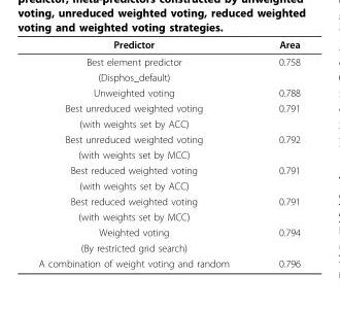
<table><thead><tr><td>Predictor</td><td>Area</td></tr></thead><tbody><tr><td>Best element predictor</td><td>0.758</td></tr><tr><td colspan="2">(Disphos_default)</td></tr><tr><td>Unweighted voting</td><td>0.788</td></tr><tr><td>Best unreduced weighted voting</td><td>0.791</td></tr><tr><td colspan="2">(with weights set by ACC)</td></tr><tr><td>Best unreduced weighted voting</td><td>0.792</td></tr><tr><td colspan="2">(with weights set by MCC)</td></tr><tr><td>Best reduced weighted voting</td><td>0.791</td></tr><tr><td colspan="2">(with weights set by ACC)</td></tr><tr><td>Best reduced weighted voting</td><td>0.791</td></tr><tr><td colspan="2">(with weights set by MCC)</td></tr><tr><td>Weighted voting</td><td>0.794</td></tr><tr><td colspan="2">(By restricted grid search)</td></tr><tr><td>A combination of weight voting and random</td><td>0.796</td></tr></tbody></table>